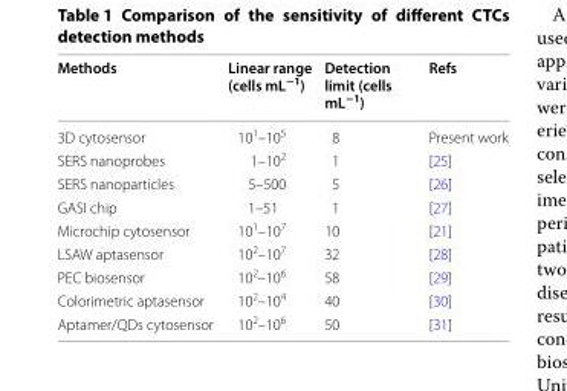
<table><thead><tr><td>Methods</td><td>Linear range (cells mL<sup>−1</sup>)</td><td>Detection limit (cells mL<sup>−1</sup>)</td><td>Refs</td></tr></thead><tbody><tr><td>3D cytosensor</td><td>10<sup>1</sup>–10<sup>5</sup></td><td>8</td><td>Present work</td></tr><tr><td>SERS nanoprobes</td><td>1–10<sup>2</sup></td><td>1</td><td>[25]</td></tr><tr><td>SERS nanoparticles</td><td>5–500</td><td>5</td><td>[26]</td></tr><tr><td>GASI chip</td><td>1–51</td><td>1</td><td>[27]</td></tr><tr><td>Microchip cytosensor</td><td>10<sup>1</sup>–10<sup>7</sup></td><td>10</td><td>[21]</td></tr><tr><td>LSAW aptasensor</td><td>10<sup>2</sup>–10<sup>7</sup></td><td>32</td><td>[28]</td></tr><tr><td>PEC biosensor</td><td>10<sup>2</sup>–10<sup>6</sup></td><td>58</td><td>[29]</td></tr><tr><td>Colorimetric aptasensor</td><td>10<sup>2</sup>–10<sup>4</sup></td><td>40</td><td>[30]</td></tr><tr><td>Aptamer/QDs cytosensor</td><td>10<sup>2</sup>–10<sup>6</sup></td><td>50</td><td>[31]</td></tr></tbody></table>